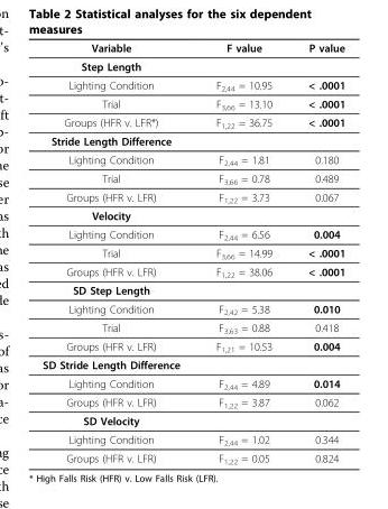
<table><thead><tr><td>Variable</td><td>F value</td><td>P value</td></tr></thead><tbody><tr><td colspan="3">Step Length</td></tr><tr><td>Lighting Condition</td><td>F<sub>2,44</sub> = 10.95</td><td>&lt; .0001</td></tr><tr><td>Trial</td><td>F<sub>3,66</sub> = 13.10</td><td>&lt; .0001</td></tr><tr><td>Groups (HFR v. LFR*)</td><td>F<sub>1,22</sub> = 36.75</td><td>&lt; .0001</td></tr><tr><td colspan="3">Stride Length Difference</td></tr><tr><td>Lighting Condition</td><td>F<sub>2,44</sub> = 1.81</td><td>0.180</td></tr><tr><td>Trial</td><td>F<sub>3,66</sub> = 0.78</td><td>0.489</td></tr><tr><td>Groups (HFR v. LFR)</td><td>F<sub>1,22</sub> = 3.73</td><td>0.067</td></tr><tr><td colspan="3">Velocity</td></tr><tr><td>Lighting Condition</td><td>F<sub>2,44</sub> = 6.56</td><td>0.004</td></tr><tr><td>Trial</td><td>F<sub>3,66</sub> = 14.99</td><td>&lt; .0001</td></tr><tr><td>Groups (HFR v. LFR)</td><td>F<sub>1,22</sub> = 38.06</td><td>&lt; .0001</td></tr><tr><td colspan="3">SD Step Length</td></tr><tr><td>Lighting Condition</td><td>F<sub>2,42</sub> = 5.38</td><td>0.010</td></tr><tr><td>Trial</td><td>F<sub>3,63</sub> = 0.88</td><td>0.418</td></tr><tr><td>Groups (HFR v. LFR)</td><td>F<sub>1,21</sub> = 10.53</td><td>0.004</td></tr><tr><td colspan="3">SD Stride Length Difference</td></tr><tr><td>Lighting Condition</td><td>F<sub>2,44</sub> = 4.89</td><td>0.014</td></tr><tr><td>Groups (HFR v. LFR)</td><td>F<sub>1,22</sub> = 3.87</td><td>0.062</td></tr><tr><td colspan="3">SD Velocity</td></tr><tr><td>Lighting Condition</td><td>F<sub>2,44</sub> = 1.02</td><td>0.344</td></tr><tr><td>Groups (HFR v. LFR)</td><td>F<sub>1,22</sub> = 0.05</td><td>0.824</td></tr></tbody></table>